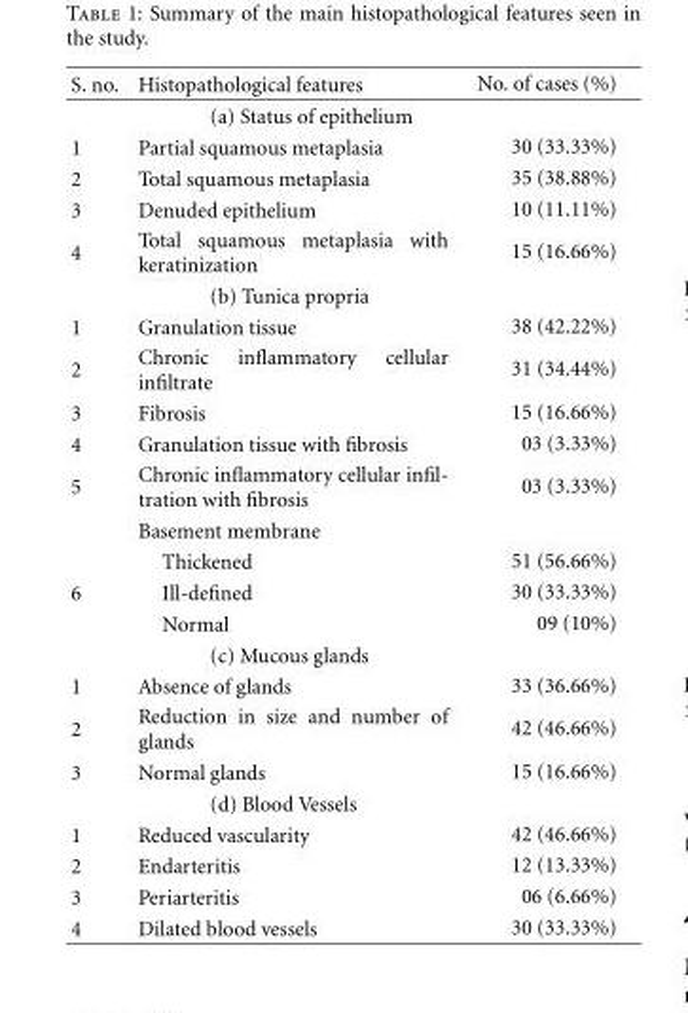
<table><thead><tr><td>S. no.</td><td>Histopathological features</td><td>No. of cases (%)</td></tr></thead><tbody><tr><td></td><td>(a) Status of epithelium</td><td></td></tr><tr><td>1</td><td>Partial squamous metaplasia</td><td>30 (33.33%)</td></tr><tr><td>2</td><td>Total squamous metaplasia</td><td>35 (38.88%)</td></tr><tr><td>3</td><td>Denuded epithelium</td><td>10 (11.11%)</td></tr><tr><td rowspan="2">4</td><td>Total squamous metaplasia with keratinization</td><td>15 (16.66%)</td></tr><tr><td>(b) Tunica propria</td><td></td></tr><tr><td>1</td><td>Granulation tissue</td><td>38 (42.22%)</td></tr><tr><td>2</td><td>Chronic inflammatory cellular infiltrate</td><td>31 (34.44%)</td></tr><tr><td>3</td><td>Fibrosis</td><td>15 (16.66%)</td></tr><tr><td>4</td><td>Granulation tissue with fibrosis</td><td>03 (3.33%)</td></tr><tr><td rowspan="3">5</td><td>Chronic inflammatory cellular infil- tration with fibrosis</td><td>03 (3.33%)</td></tr><tr><td>Basement membrane</td><td></td></tr><tr><td>Thickened</td><td>51 (56.66%)</td></tr><tr><td rowspan="3">6</td><td>Ill-defined</td><td>30 (33.33%)</td></tr><tr><td>Normal</td><td>09 (10%)</td></tr><tr><td>(c) Mucous glands</td><td></td></tr><tr><td>1</td><td>Absence of glands</td><td>33 (36.66%)</td></tr><tr><td>2</td><td>Reduction in size and number of glands</td><td>42 (46.66%)</td></tr><tr><td rowspan="2">3</td><td>Normal glands</td><td>15 (16.66%)</td></tr><tr><td>(d) Blood Vessels</td><td></td></tr><tr><td>1</td><td>Reduced vascularity</td><td>42 (46.66%)</td></tr><tr><td>2</td><td>Endarteritis</td><td>12 (13.33%)</td></tr><tr><td>3</td><td>Periarteritis</td><td>06 (6.66%)</td></tr><tr><td>4</td><td>Dilated blood vessels</td><td>30 (33.33%)</td></tr></tbody></table>